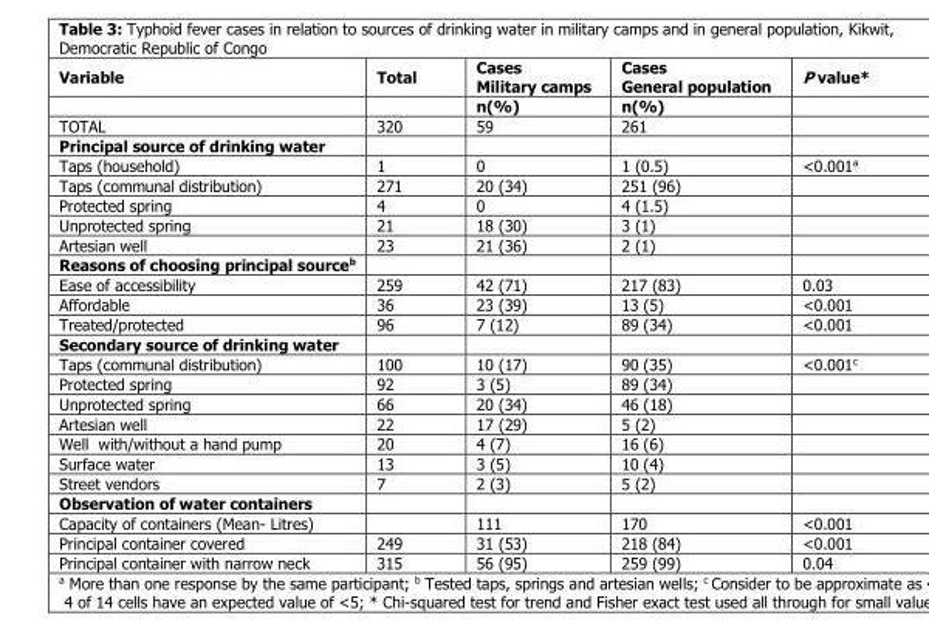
<table><thead><tr><td>Variable</td><td>Total</td><td>Cases Military camps</td><td>Cases General population</td><td>P value*</td></tr></thead><tbody><tr><td></td><td></td><td>n(%)</td><td>n(%)</td><td></td></tr><tr><td>TOTAL</td><td>320</td><td>59</td><td>261</td><td></td></tr><tr><td colspan="5">Principal source of drinking water</td></tr><tr><td>Taps (household)</td><td>1</td><td>0</td><td>1 (0.5)</td><td>&lt;0.001<sup>a</sup></td></tr><tr><td>Taps (communal distribution)</td><td>271</td><td>20 (34)</td><td>251 (96)</td><td></td></tr><tr><td>Protected spring</td><td>4</td><td>0</td><td>4 (1.5)</td><td></td></tr><tr><td>Unprotected spring</td><td>21</td><td>18 (30)</td><td>3 (1)</td><td></td></tr><tr><td>Artesian well</td><td>23</td><td>21 (36)</td><td>2 (1)</td><td></td></tr><tr><td colspan="5">Reasons of choosing principal source<sup>b</sup></td></tr><tr><td>Ease of accessibility</td><td>259</td><td>42 (71)</td><td>217 (83)</td><td>0.03</td></tr><tr><td>Affordable</td><td>36</td><td>23 (39)</td><td>13 (5)</td><td>&lt;0.001</td></tr><tr><td>Treated/protected</td><td>96</td><td>7 (12)</td><td>89 (34)</td><td>&lt;0.001</td></tr><tr><td colspan="5">Secondary source of drinking water</td></tr><tr><td>Taps (communal distribution)</td><td>100</td><td>10 (17)</td><td>90 (35)</td><td>&lt;0.001<sup>c</sup></td></tr><tr><td>Protected spring</td><td>92</td><td>3 (5)</td><td>89 (34)</td><td></td></tr><tr><td>Unprotected spring</td><td>66</td><td>20 (34)</td><td>46 (18)</td><td></td></tr><tr><td>Artesian well</td><td>22</td><td>17 (29)</td><td>5 (2)</td><td></td></tr><tr><td>Well with/without a hand pump</td><td>20</td><td>4 (7)</td><td>16 (6)</td><td></td></tr><tr><td>Surface water</td><td>13</td><td>3 (5)</td><td>10 (4)</td><td></td></tr><tr><td>Street vendors</td><td>7</td><td>2 (3)</td><td>5 (2)</td><td></td></tr><tr><td colspan="5">Observation of water containers</td></tr><tr><td>Capacity of containers (Mean- Litres)</td><td></td><td>111</td><td>170</td><td>&lt;0.001</td></tr><tr><td>Principal container covered</td><td>249</td><td>31 (53)</td><td>218 (84)</td><td>&lt;0.001</td></tr><tr><td>Principal container with narrow neck</td><td>315</td><td>56 (95)</td><td>259 (99)</td><td>0.04</td></tr></tbody></table>